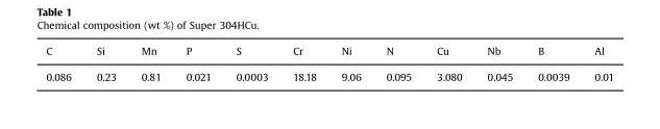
<table><thead><tr><td>C</td><td>Si</td><td>Mn</td><td>P</td><td>S</td><td>Cr</td><td>Ni</td><td>N</td><td>Cu</td><td>Nb</td><td>B</td><td>Al</td></tr></thead><tbody><tr><td>0.086</td><td>0.23</td><td>0.81</td><td>0.021</td><td>0.0003</td><td>18.18</td><td>9.06</td><td>0.095</td><td>3.080</td><td>0.045</td><td>0.0039</td><td>0.01</td></tr></tbody></table>